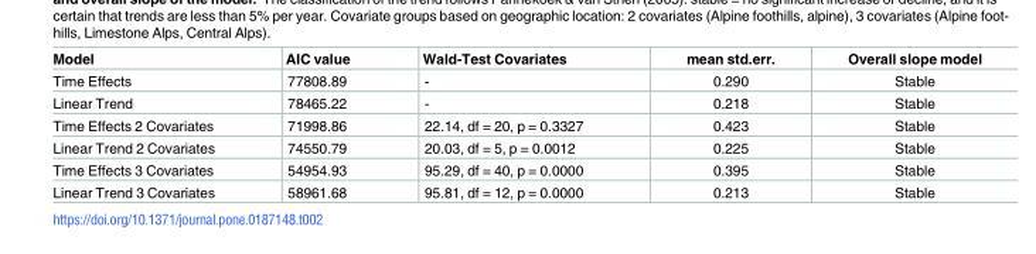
<table><thead><tr><td>Model</td><td>AIC value</td><td>Wald-Test Covariates</td><td>mean std.err.</td><td>Overall slope model</td></tr></thead><tbody><tr><td>Time Effects</td><td>77808.89</td><td>-</td><td>0.290</td><td>Stable</td></tr><tr><td>Linear Trend</td><td>78465.22</td><td>-</td><td>0.218</td><td>Stable</td></tr><tr><td>Time Effects 2 Covariates</td><td>71998.86</td><td>22.14, df = 20, p = 0.3327</td><td>0.423</td><td>Stable</td></tr><tr><td>Linear Trend 2 Covariates</td><td>74550.79</td><td>20.03, df = 5, p = 0.0012</td><td>0.225</td><td>Stable</td></tr><tr><td>Time Effects 3 Covariates</td><td>54954.93</td><td>95.29, df = 40, p = 0.0000</td><td>0.395</td><td>Stable</td></tr><tr><td>Linear Trend 3 Covariates</td><td>58961.68</td><td>95.81, df = 12, p = 0.0000</td><td>0.213</td><td>Stable</td></tr></tbody></table>